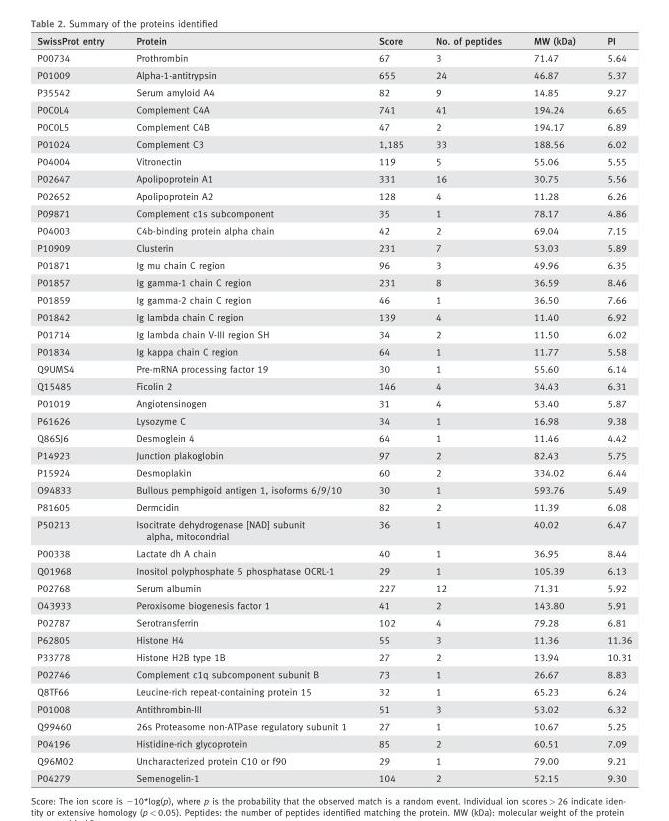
<table><thead><tr><td>SwissProt entry</td><td>Protein</td><td>Score</td><td>No. of peptides</td><td>MW (kDa)</td><td>PI</td></tr></thead><tbody><tr><td>P00734</td><td>Prothrombin</td><td>67</td><td>3</td><td>71.47</td><td>5.64</td></tr><tr><td>P01009</td><td>Alpha-1-antitrypsin</td><td>655</td><td>24</td><td>46.87</td><td>5.37</td></tr><tr><td>P35542</td><td>Serum amyloid A4</td><td>82</td><td>9</td><td>14.85</td><td>9.27</td></tr><tr><td>P0C0L4</td><td>Complement C4A</td><td>741</td><td>41</td><td>194.24</td><td>6.65</td></tr><tr><td>P0C0L5</td><td>Complement C4B</td><td>47</td><td>2</td><td>194.17</td><td>6.89</td></tr><tr><td>P01024</td><td>Complement C3</td><td>1,185</td><td>33</td><td>188.56</td><td>6.02</td></tr><tr><td>P04004</td><td>Vitronectin</td><td>119</td><td>5</td><td>55.06</td><td>5.55</td></tr><tr><td>P02647</td><td>Apolipoprotein A1</td><td>331</td><td>16</td><td>30.75</td><td>5.56</td></tr><tr><td>P02652</td><td>Apolipoprotein A2</td><td>128</td><td>4</td><td>11.28</td><td>6.26</td></tr><tr><td>P09871</td><td>Complement c1s subcomponent</td><td>35</td><td>1</td><td>78.17</td><td>4.86</td></tr><tr><td>P04003</td><td>C4b-binding protein alpha chain</td><td>42</td><td>2</td><td>69.04</td><td>7.15</td></tr><tr><td>P10909</td><td>Clusterin</td><td>231</td><td>7</td><td>53.03</td><td>5.89</td></tr><tr><td>P01871</td><td>Ig mu chain C region</td><td>96</td><td>3</td><td>49.96</td><td>6.35</td></tr><tr><td>P01857</td><td>Ig gamma-1 chain C region</td><td>231</td><td>8</td><td>36.59</td><td>8.46</td></tr><tr><td>P01859</td><td>Ig gamma-2 chain C region</td><td>46</td><td>1</td><td>36.50</td><td>7.66</td></tr><tr><td>P01842</td><td>Ig lambda chain C region</td><td>139</td><td>4</td><td>11.40</td><td>6.92</td></tr><tr><td>P01714</td><td>Ig lambda chain V-III region SH</td><td>34</td><td>2</td><td>11.50</td><td>6.02</td></tr><tr><td>P01834</td><td>Ig kappa chain C region</td><td>64</td><td>1</td><td>11.77</td><td>5.58</td></tr><tr><td>Q9UMS4</td><td>Pre-mRNA processing factor 19</td><td>30</td><td>1</td><td>55.60</td><td>6.14</td></tr><tr><td>Q15485</td><td>Ficolin 2</td><td>146</td><td>4</td><td>34.43</td><td>6.31</td></tr><tr><td>P01019</td><td>Angiotensinogen</td><td>31</td><td>4</td><td>53.40</td><td>5.87</td></tr><tr><td>P61626</td><td>Lysozyme C</td><td>34</td><td>1</td><td>16.98</td><td>9.38</td></tr><tr><td>Q86SJ6</td><td>Desmoglein 4</td><td>64</td><td>1</td><td>11.46</td><td>4.42</td></tr><tr><td>P14923</td><td>Junction plakoglobin</td><td>97</td><td>2</td><td>82.43</td><td>5.75</td></tr><tr><td>P15924</td><td>Desmoplakin</td><td>60</td><td>2</td><td>334.02</td><td>6.44</td></tr><tr><td>O94833</td><td>Bullous pemphigoid antigen 1, isoforms 6/9/10</td><td>30</td><td>1</td><td>593.76</td><td>5.49</td></tr><tr><td>P81605</td><td>Dermcidin</td><td>82</td><td>2</td><td>11.39</td><td>6.08</td></tr><tr><td>P50213</td><td>Isocitrate dehydrogenase [NAD] subunit alpha, mitocondrial</td><td>36</td><td>1</td><td>40.02</td><td>6.47</td></tr><tr><td>P00338</td><td>Lactate dh A chain</td><td>40</td><td>1</td><td>36.95</td><td>8.44</td></tr><tr><td>Q01968</td><td>Inositol polyphosphate 5 phosphatase OCRL-1</td><td>29</td><td>1</td><td>105.39</td><td>6.13</td></tr><tr><td>P02768</td><td>Serum albumin</td><td>227</td><td>12</td><td>71.31</td><td>5.92</td></tr><tr><td>O43933</td><td>Peroxisome biogenesis factor 1</td><td>41</td><td>2</td><td>143.80</td><td>5.91</td></tr><tr><td>P02787</td><td>Serotransferrin</td><td>102</td><td>4</td><td>79.28</td><td>6.81</td></tr><tr><td>P62805</td><td>Histone H4</td><td>55</td><td>3</td><td>11.36</td><td>11.36</td></tr><tr><td>P33778</td><td>Histone H2B type 1B</td><td>27</td><td>2</td><td>13.94</td><td>10.31</td></tr><tr><td>P02746</td><td>Complement c1q subcomponent subunit B</td><td>73</td><td>1</td><td>26.67</td><td>8.83</td></tr><tr><td>Q8TF66</td><td>Leucine-rich repeat-containing protein 15</td><td>32</td><td>1</td><td>65.23</td><td>6.24</td></tr><tr><td>P01008</td><td>Antithrombin-III</td><td>51</td><td>3</td><td>53.02</td><td>6.32</td></tr><tr><td>Q99460</td><td>26s Proteasome non-ATPase regulatory subunit 1</td><td>27</td><td>1</td><td>10.67</td><td>5.25</td></tr><tr><td>P04196</td><td>Histidine-rich glycoprotein</td><td>85</td><td>2</td><td>60.51</td><td>7.09</td></tr><tr><td>Q96M02</td><td>Uncharacterized protein C10 or f90</td><td>29</td><td>1</td><td>79.00</td><td>9.21</td></tr><tr><td>P04279</td><td>Semenogelin-1</td><td>104</td><td>2</td><td>52.15</td><td>9.30</td></tr></tbody></table>